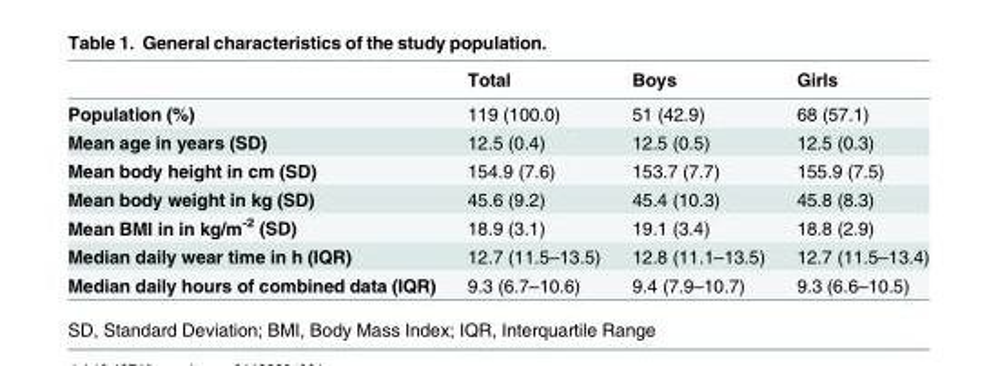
<table><thead><tr><td></td><td>Total</td><td>Boys</td><td>Girls</td></tr></thead><tbody><tr><td>Population (%)</td><td>119 (100.0)</td><td>51 (42.9)</td><td>68 (57.1)</td></tr><tr><td>Mean age in years (SD)</td><td>12.5 (0.4)</td><td>12.5 (0.5)</td><td>12.5 (0.3)</td></tr><tr><td>Mean body height in cm (SD)</td><td>154.9 (7.6)</td><td>153.7 (7.7)</td><td>155.9 (7.5)</td></tr><tr><td>Mean body weight in kg (SD)</td><td>45.6 (9.2)</td><td>45.4 (10.3)</td><td>45.8 (8.3)</td></tr><tr><td>Mean BMI in in kg/m<sup>-2</sup> (SD)</td><td>18.9 (3.1)</td><td>19.1 (3.4)</td><td>18.8 (2.9)</td></tr><tr><td>Median daily wear time in h (IQR)</td><td>12.7 (11.5–13.5)</td><td>12.8 (11.1–13.5)</td><td>12.7 (11.5–13.4)</td></tr><tr><td>Median daily hours of combined data (IQR)</td><td>9.3 (6.7–10.6)</td><td>9.4 (7.9–10.7)</td><td>9.3 (6.6–10.5)</td></tr></tbody></table>